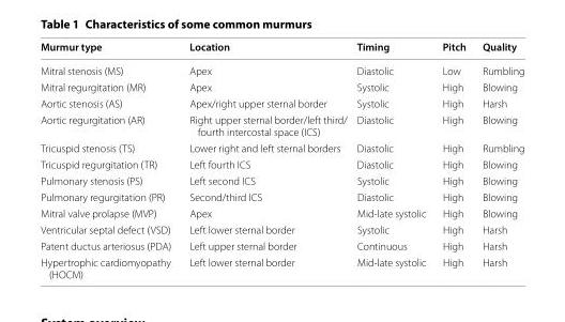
<table><thead><tr><td>Murmur type</td><td>Location</td><td>Timing</td><td>Pitch</td><td>Quality</td></tr></thead><tbody><tr><td>Mitral stenosis (MS)</td><td>Apex</td><td>Diastolic</td><td>Low</td><td>Rumbling</td></tr><tr><td>Mitral regurgitation (MR)</td><td>Apex</td><td>Systolic</td><td>High</td><td>Blowing</td></tr><tr><td>Aortic stenosis (AS)</td><td>Apex/right upper sternal border</td><td>Systolic</td><td>High</td><td>Harsh</td></tr><tr><td>Aortic regurgitation (AR)</td><td>Right upper sternal border/left third/ fourth intercostal space (ICS)</td><td>Diastolic</td><td>High</td><td>Blowing</td></tr><tr><td>Tricuspid stenosis (TS)</td><td>Lower right and left sternal borders</td><td>Diastolic</td><td>High</td><td>Rumbling</td></tr><tr><td>Tricuspid regurgitation (TR)</td><td>Left fourth ICS</td><td>Diastolic</td><td>High</td><td>Blowing</td></tr><tr><td>Pulmonary stenosis (PS)</td><td>Left second ICS</td><td>Systolic</td><td>High</td><td>Blowing</td></tr><tr><td>Pulmonary regurgitation (PR)</td><td>Second/third ICS</td><td>Diastolic</td><td>High</td><td>Blowing</td></tr><tr><td>Mitral valve prolapse (MVP)</td><td>Apex</td><td>Mid-late systolic</td><td>High</td><td>Blowing</td></tr><tr><td>Ventricular septal defect (VSD)</td><td>Left lower sternal border</td><td>Systolic</td><td>High</td><td>Harsh</td></tr><tr><td>Patent ductus arteriosus (PDA)</td><td>Left upper sternal border</td><td>Continuous</td><td>High</td><td>Harsh</td></tr><tr><td>Hypertrophic cardiomyopathy (HOCM)</td><td>Left lower sternal border</td><td>Mid-late systolic</td><td>High</td><td>Harsh</td></tr></tbody></table>